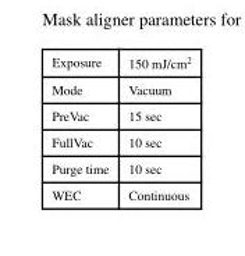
<table><tbody><tr><td>Exposure</td><td>150 mJ/cm<sup>2</sup></td></tr><tr><td>Mode</td><td>Vacuum</td></tr><tr><td>PreVac</td><td>15 sec</td></tr><tr><td>FullVac</td><td>10 sec</td></tr><tr><td>Purge time</td><td>10 sec</td></tr><tr><td>WEC</td><td>Continuous</td></tr></tbody></table>